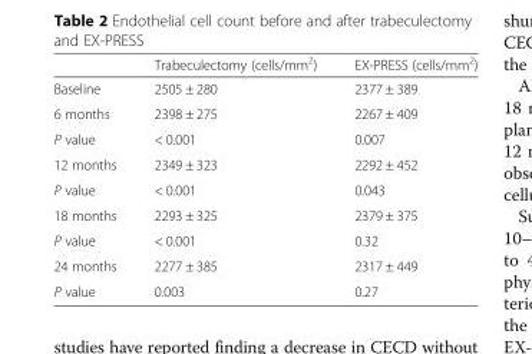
<table><thead><tr><td></td><td>Trabeculectomy (cells/mm<sup>2</sup>)</td><td>EX-PRESS (cells/mm<sup>2</sup>)</td></tr></thead><tbody><tr><td>Baseline</td><td>2505 ± 280</td><td>2377 ± 389</td></tr><tr><td>6 months</td><td>2398 ± 275</td><td>2267 ± 409</td></tr><tr><td>P value</td><td>&lt; 0.001</td><td>0.007</td></tr><tr><td>12 months</td><td>2349 ± 323</td><td>2292 ± 452</td></tr><tr><td>P value</td><td>&lt; 0.001</td><td>0.043</td></tr><tr><td>18 months</td><td>2293 ± 325</td><td>2379 ± 375</td></tr><tr><td>P value</td><td>&lt; 0.001</td><td>0.32</td></tr><tr><td>24 months</td><td>2277 ± 385</td><td>2317 ± 449</td></tr><tr><td>P value</td><td>0.003</td><td>0.27</td></tr></tbody></table>